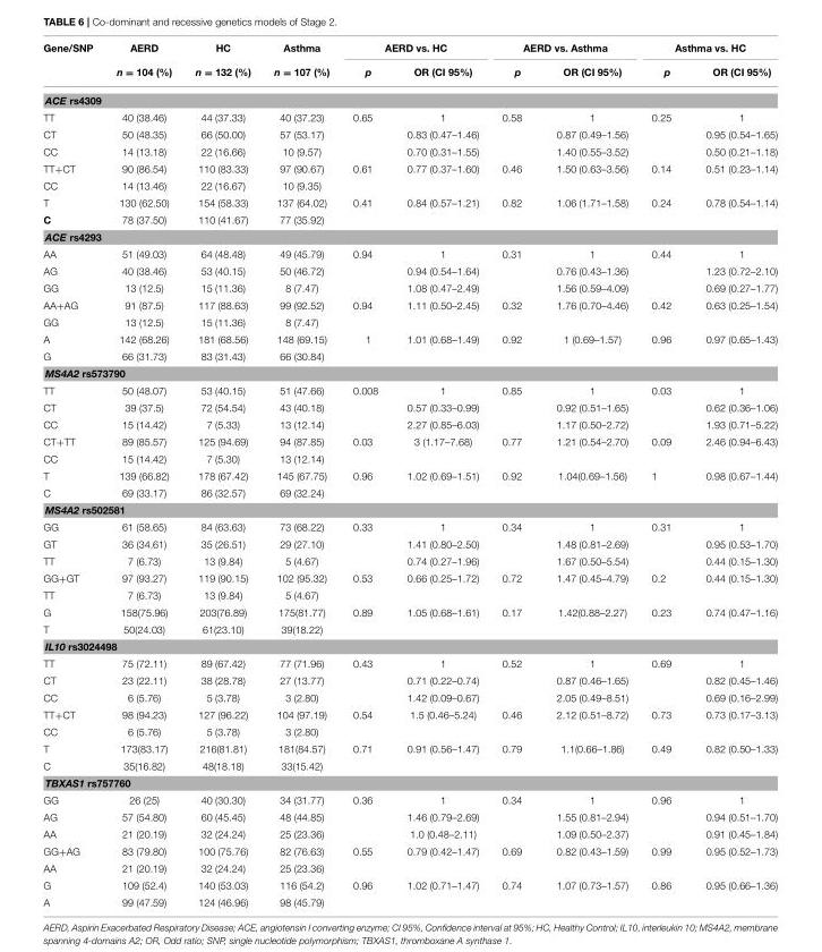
<table><thead><tr><td rowspan="2">Gene/SNP</td><td rowspan="2">AERD n = 104 (%)</td><td rowspan="2">HC n = 132 (%)</td><td rowspan="2">Asthma n = 107 (%)</td><td colspan="2">AERD vs. HC</td><td colspan="2">AERD vs. Asthma</td><td colspan="2">Asthma vs. HC</td></tr><tr><td>p</td><td>OR (CI 95%)</td><td>p</td><td>OR (CI 95%)</td><td>p</td><td>OR (CI 95%)</td></tr></thead><tbody><tr><td colspan="10">ACE rs4309</td></tr><tr><td>TT</td><td>40 (38.46)</td><td>44 (37.33)</td><td>40 (37.23)</td><td>0.65</td><td>1</td><td>0.58</td><td>1</td><td>0.25</td><td>1</td></tr><tr><td>CT</td><td>50 (48.35)</td><td>66 (50.00)</td><td>57 (53.17)</td><td></td><td>0.83 (0.47–1.46)</td><td></td><td>0.87 (0.49–1.56)</td><td></td><td>0.95 (0.54–1.65)</td></tr><tr><td>CC</td><td>14 (13.18)</td><td>22 (16.66)</td><td>10 (9.57)</td><td></td><td>0.70 (0.31–1.55)</td><td></td><td>1.40 (0.55–3.52)</td><td></td><td>0.50 (0.21–1.18)</td></tr><tr><td>TT+CT</td><td>90 (86.54)</td><td>110 (83.33)</td><td>97 (90.67)</td><td>0.61</td><td>0.77 (0.37–1.60)</td><td>0.46</td><td>1.50 (0.63–3.56)</td><td>0.14</td><td>0.51 (0.23–1.14)</td></tr><tr><td>CC</td><td>14 (13.46)</td><td>22 (16.67)</td><td>10 (9.35)</td><td></td><td></td><td></td><td></td><td></td><td></td></tr><tr><td>T</td><td>130 (62.50)</td><td>154 (58.33)</td><td>137 (64.02)</td><td>0.41</td><td>0.84 (0.57–1.21)</td><td>0.82</td><td>1.06 (1.71–1.58)</td><td>0.24</td><td>0.78 (0.54–1.14)</td></tr><tr><td>C</td><td>78 (37.50)</td><td>110 (41.67)</td><td>77 (35.92)</td><td></td><td></td><td></td><td></td><td></td><td></td></tr><tr><td colspan="10">ACE rs4293</td></tr><tr><td>AA</td><td>51 (49.03)</td><td>64 (48.48)</td><td>49 (45.79)</td><td>0.94</td><td>1</td><td>0.31</td><td>1</td><td>0.44</td><td>1</td></tr><tr><td>AG</td><td>40 (38.46)</td><td>53 (40.15)</td><td>50 (46.72)</td><td></td><td>0.94 (0.54–1.64)</td><td></td><td>0.76 (0.43–1.36)</td><td></td><td>1.23 (0.72–2.10)</td></tr><tr><td>GG</td><td>13 (12.5)</td><td>15 (11.36)</td><td>8 (7.47)</td><td></td><td>1.08 (0.47–2.49)</td><td></td><td>1.56 (0.59–4.09)</td><td></td><td>0.69 (0.27–1.77)</td></tr><tr><td>AA+AG</td><td>91 (87.5)</td><td>117 (88.63)</td><td>99 (92.52)</td><td>0.94</td><td>1.11 (0.50–2.45)</td><td>0.32</td><td>1.76 (0.70–4.46)</td><td>0.42</td><td>0.63 (0.25–1.54)</td></tr><tr><td>GG</td><td>13 (12.5)</td><td>15 (11.36)</td><td>8 (7.47)</td><td></td><td></td><td></td><td></td><td></td><td></td></tr><tr><td>A</td><td>142 (68.26)</td><td>181 (68.56)</td><td>148 (69.15)</td><td>1</td><td>1.01 (0.68–1.49)</td><td>0.92</td><td>1 (0.69–1.57)</td><td>0.96</td><td>0.97 (0.65–1.43)</td></tr><tr><td>G</td><td>66 (31.73)</td><td>83 (31.43)</td><td>66 (30.84)</td><td></td><td></td><td></td><td></td><td></td><td></td></tr><tr><td colspan="10">MS4A2 rs573790</td></tr><tr><td>TT</td><td>50 (48.07)</td><td>53 (40.15)</td><td>51 (47.66)</td><td>0.008</td><td>1</td><td>0.85</td><td>1</td><td>0.03</td><td>1</td></tr><tr><td>CT</td><td>39 (37.5)</td><td>72 (54.54)</td><td>43 (40.18)</td><td></td><td>0.57 (0.33–0.99)</td><td></td><td>0.92 (0.51–1.65)</td><td></td><td>0.62 (0.36–1.06)</td></tr><tr><td>CC</td><td>15 (14.42)</td><td>7 (5.33)</td><td>13 (12.14)</td><td></td><td>2.27 (0.85–6.03)</td><td></td><td>1.17 (0.50–2.72)</td><td></td><td>1.93 (0.71–5.22)</td></tr><tr><td>CT+TT</td><td>89 (85.57)</td><td>125 (94.69)</td><td>94 (87.85)</td><td>0.03</td><td>3 (1.17–7.68)</td><td>0.77</td><td>1.21 (0.54–2.70)</td><td>0.09</td><td>2.46 (0.94–6.43)</td></tr><tr><td>CC</td><td>15 (14.42)</td><td>7 (5.30)</td><td>13 (12.14)</td><td></td><td></td><td></td><td></td><td></td><td></td></tr><tr><td>T</td><td>139 (66.82)</td><td>178 (67.42)</td><td>145 (67.75)</td><td>0.96</td><td>1.02 (0.69–1.51)</td><td>0.92</td><td>1.04(0.69–1.56)</td><td>1</td><td>0.98 (0.67–1.44)</td></tr><tr><td>C</td><td>69 (33.17)</td><td>86 (32.57)</td><td>69 (32.24)</td><td></td><td></td><td></td><td></td><td></td><td></td></tr><tr><td colspan="10">MS4A2 rs502581</td></tr><tr><td>GG</td><td>61 (58.65)</td><td>84 (63.63)</td><td>73 (68.22)</td><td>0.33</td><td>1</td><td>0.34</td><td>1</td><td>0.31</td><td>1</td></tr><tr><td>GT</td><td>36 (34.61)</td><td>35 (26.51)</td><td>29 (27.10)</td><td></td><td>1.41 (0.80–2.50)</td><td></td><td>1.48 (0.81–2.69)</td><td></td><td>0.95 (0.53–1.70)</td></tr><tr><td>TT</td><td>7 (6.73)</td><td>13 (9.84)</td><td>5 (4.67)</td><td></td><td>0.74 (0.27–1.96)</td><td></td><td>1.67 (0.50–5.54)</td><td></td><td>0.44 (0.15–1.30)</td></tr><tr><td>GG+GT</td><td>97 (93.27)</td><td>119 (90.15)</td><td>102 (95.32)</td><td>0.53</td><td>0.66 (0.25–1.72)</td><td>0.72</td><td>1.47 (0.45–4.79)</td><td>0.2</td><td>0.44 (0.15–1.30)</td></tr><tr><td>TT</td><td>7 (6.73)</td><td>13 (9.84)</td><td>5 (4.67)</td><td></td><td></td><td></td><td></td><td></td><td></td></tr><tr><td>G</td><td>158(75.96)</td><td>203(76.89)</td><td>175(81.77)</td><td>0.89</td><td>1.05 (0.68–1.61)</td><td>0.17</td><td>1.42(0.88–2.27)</td><td>0.23</td><td>0.74 (0.47–1.16)</td></tr><tr><td>T</td><td>50(24.03)</td><td>61(23.10)</td><td>39(18.22)</td><td></td><td></td><td></td><td></td><td></td><td></td></tr><tr><td colspan="10">IL10 rs3024498</td></tr><tr><td>TT</td><td>75 (72.11)</td><td>89 (67.42)</td><td>77 (71.96)</td><td>0.43</td><td>1</td><td>0.52</td><td>1</td><td>0.69</td><td>1</td></tr><tr><td>CT</td><td>23 (22.11)</td><td>38 (28.78)</td><td>27 (13.77)</td><td></td><td>0.71 (0.22–0.74)</td><td></td><td>0.87 (0.46–1.65)</td><td></td><td>0.82 (0.45–1.46)</td></tr><tr><td>CC</td><td>6 (5.76)</td><td>5 (3.78)</td><td>3 (2.80)</td><td></td><td>1.42 (0.09–0.67)</td><td></td><td>2.05 (0.49–8.51)</td><td></td><td>0.69 (0.16–2.99)</td></tr><tr><td>TT+CT</td><td>98 (94.23)</td><td>127 (96.22)</td><td>104 (97.19)</td><td>0.54</td><td>1.5 (0.46–5.24)</td><td>0.46</td><td>2.12 (0.51–8.72)</td><td>0.73</td><td>0.73 (0.17–3.13)</td></tr><tr><td>CC</td><td>6 (5.76)</td><td>5 (3.78)</td><td>3 (2.80)</td><td></td><td></td><td></td><td></td><td></td><td></td></tr><tr><td>T</td><td>173(83.17)</td><td>216(81.81)</td><td>181(84.57)</td><td>0.71</td><td>0.91 (0.56–1.47)</td><td>0.79</td><td>1.1(0.66–1.86)</td><td>0.49</td><td>0.82 (0.50–1.33)</td></tr><tr><td>C</td><td>35(16.82)</td><td>48(18.18)</td><td>33(15.42)</td><td></td><td></td><td></td><td></td><td></td><td></td></tr><tr><td colspan="10">TBXAS1 rs757760</td></tr><tr><td>GG</td><td>26 (25)</td><td>40 (30.30)</td><td>34 (31.77)</td><td>0.36</td><td>1</td><td>0.34</td><td>1</td><td>0.96</td><td>1</td></tr><tr><td>AG</td><td>57 (54.80)</td><td>60 (45.45)</td><td>48 (44.85)</td><td></td><td>1.46 (0.79–2.69)</td><td></td><td>1.55 (0.81–2.94)</td><td></td><td>0.94 (0.51–1.70)</td></tr><tr><td>AA</td><td>21 (20.19)</td><td>32 (24.24)</td><td>25 (23.36)</td><td></td><td>1.0 (0.48–2.11)</td><td></td><td>1.09 (0.50–2.37)</td><td></td><td>0.91 (0.45–1.84)</td></tr><tr><td>GG+AG</td><td>83 (79.80)</td><td>100 (75.76)</td><td>82 (76.63)</td><td>0.55</td><td>0.79 (0.42–1.47)</td><td>0.69</td><td>0.82 (0.43–1.59)</td><td>0.99</td><td>0.95 (0.52–1.73)</td></tr><tr><td>AA</td><td>21 (20.19)</td><td>32 (24.24)</td><td>25 (23.36)</td><td></td><td></td><td></td><td></td><td></td><td></td></tr><tr><td>G</td><td>109 (52.4)</td><td>140 (53.03)</td><td>116 (54.2)</td><td>0.96</td><td>1.02 (0.71–1.47)</td><td>0.74</td><td>1.07 (0.73–1.57)</td><td>0.86</td><td>0.95 (0.66–1.36)</td></tr><tr><td>A</td><td>99 (47.59)</td><td>124 (46.96)</td><td>98 (45.79)</td><td></td><td></td><td></td><td></td><td></td><td></td></tr></tbody></table>